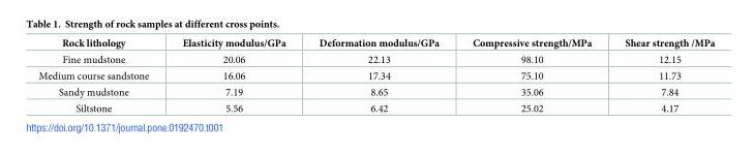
<table><thead><tr><td>Rock lithology</td><td>Elasticity modulus/GPa</td><td>Deformation modulus/GPa</td><td>Compressive strength/MPa</td><td>Shear strength /MPa</td></tr></thead><tbody><tr><td>Fine mudstone</td><td>20.06</td><td>22.13</td><td>98.10</td><td>12.15</td></tr><tr><td>Medium course sandstone</td><td>16.06</td><td>17.34</td><td>75.10</td><td>11.73</td></tr><tr><td>Sandy mudstone</td><td>7.19</td><td>8.65</td><td>35.06</td><td>7.84</td></tr><tr><td>Siltstone</td><td>5.56</td><td>6.42</td><td>25.02</td><td>4.17</td></tr></tbody></table>